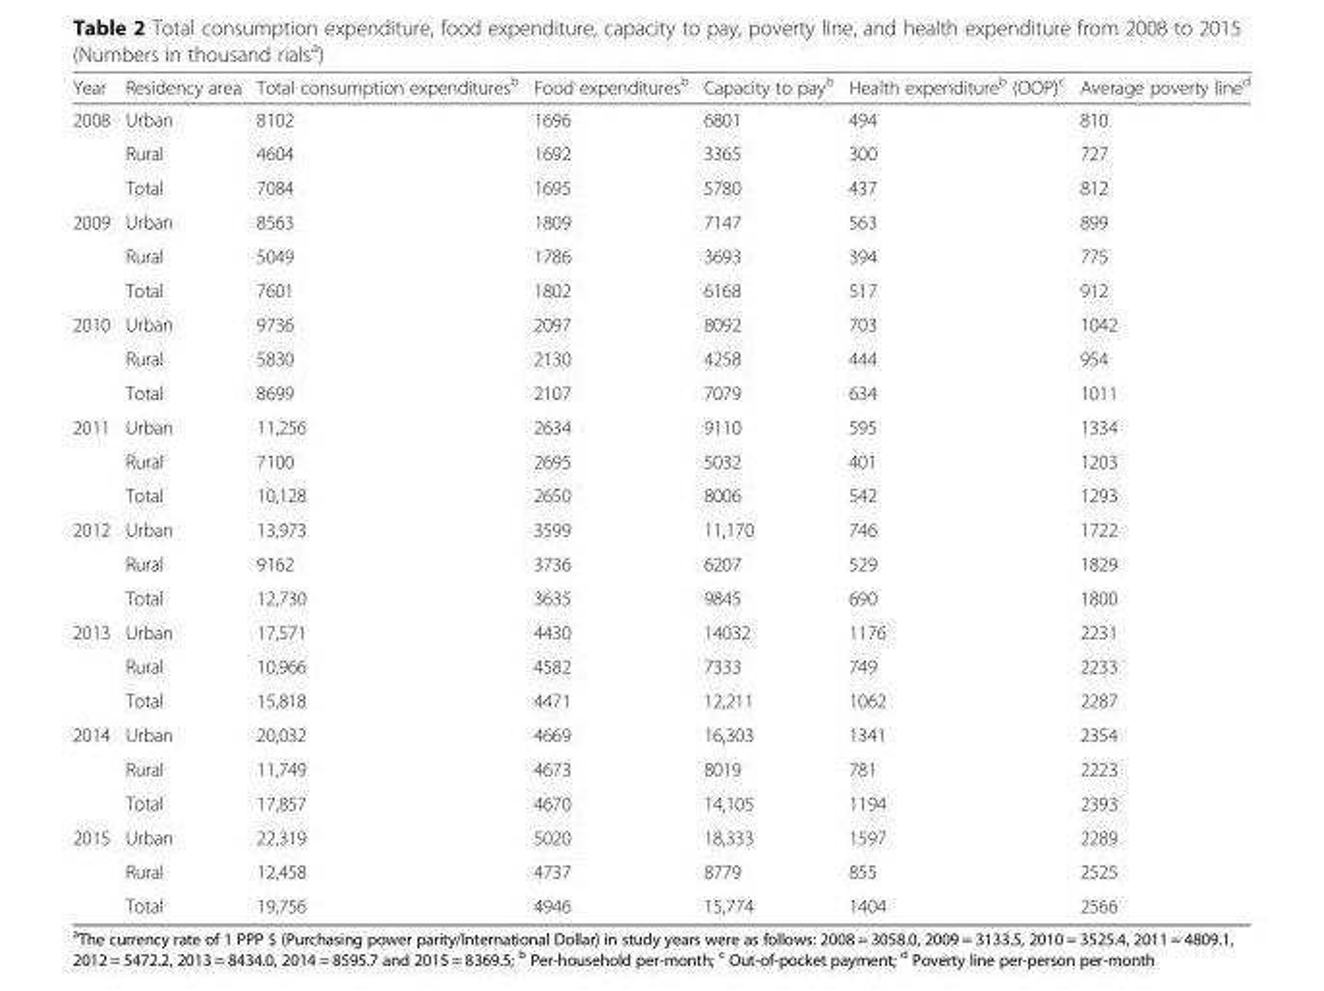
<table><thead><tr><td>Year</td><td>Residency area</td><td>Total consumption expenditures<sup>b</sup></td><td>Food expenditures<sup>b</sup></td><td>Capacity to pay<sup>b</sup></td><td>Health expenditure<sup>b</sup> (OOP)<sup>c</sup></td><td>Average poverty line<sup>d</sup></td></tr></thead><tbody><tr><td rowspan="3">2008</td><td>Urban</td><td>8102</td><td>1696</td><td>6801</td><td>494</td><td>810</td></tr><tr><td>Rural</td><td>4604</td><td>1692</td><td>3365</td><td>300</td><td>727</td></tr><tr><td>Total</td><td>7084</td><td>1695</td><td>5780</td><td>437</td><td>812</td></tr><tr><td rowspan="3">2009</td><td>Urban</td><td>8563</td><td>1809</td><td>7147</td><td>563</td><td>899</td></tr><tr><td>Rural</td><td>5049</td><td>1786</td><td>3693</td><td>394</td><td>775</td></tr><tr><td>Total</td><td>7601</td><td>1802</td><td>6168</td><td>517</td><td>912</td></tr><tr><td rowspan="3">2010</td><td>Urban</td><td>9736</td><td>2097</td><td>8092</td><td>703</td><td>1042</td></tr><tr><td>Rural</td><td>5830</td><td>2130</td><td>4258</td><td>444</td><td>954</td></tr><tr><td>Total</td><td>8699</td><td>2107</td><td>7079</td><td>634</td><td>1011</td></tr><tr><td rowspan="3">2011</td><td>Urban</td><td>11,256</td><td>2634</td><td>9110</td><td>595</td><td>1334</td></tr><tr><td>Rural</td><td>7100</td><td>2695</td><td>5032</td><td>401</td><td>1203</td></tr><tr><td>Total</td><td>10,128</td><td>2650</td><td>8006</td><td>542</td><td>1293</td></tr><tr><td rowspan="3">2012</td><td>Urban</td><td>13,973</td><td>3599</td><td>11,170</td><td>746</td><td>1722</td></tr><tr><td>Rural</td><td>9162</td><td>3736</td><td>6207</td><td>529</td><td>1829</td></tr><tr><td>Total</td><td>12,730</td><td>3635</td><td>9845</td><td>690</td><td>1800</td></tr><tr><td rowspan="3">2013</td><td>Urban</td><td>17,571</td><td>4430</td><td>14032</td><td>1176</td><td>2231</td></tr><tr><td>Rural</td><td>10,966</td><td>4582</td><td>7333</td><td>749</td><td>2233</td></tr><tr><td>Total</td><td>15,818</td><td>4471</td><td>12,211</td><td>1062</td><td>2287</td></tr><tr><td rowspan="3">2014</td><td>Urban</td><td>20,032</td><td>4669</td><td>16,303</td><td>1341</td><td>2354</td></tr><tr><td>Rural</td><td>11,749</td><td>4673</td><td>8019</td><td>781</td><td>2223</td></tr><tr><td>Total</td><td>17,857</td><td>4670</td><td>14,105</td><td>1194</td><td>2393</td></tr><tr><td rowspan="3">2015</td><td>Urban</td><td>22,319</td><td>5020</td><td>18,333</td><td>1597</td><td>2289</td></tr><tr><td>Rural</td><td>12,458</td><td>4737</td><td>8779</td><td>855</td><td>2525</td></tr><tr><td>Total</td><td>19,756</td><td>4946</td><td>15,774</td><td>1404</td><td>2566</td></tr></tbody></table>